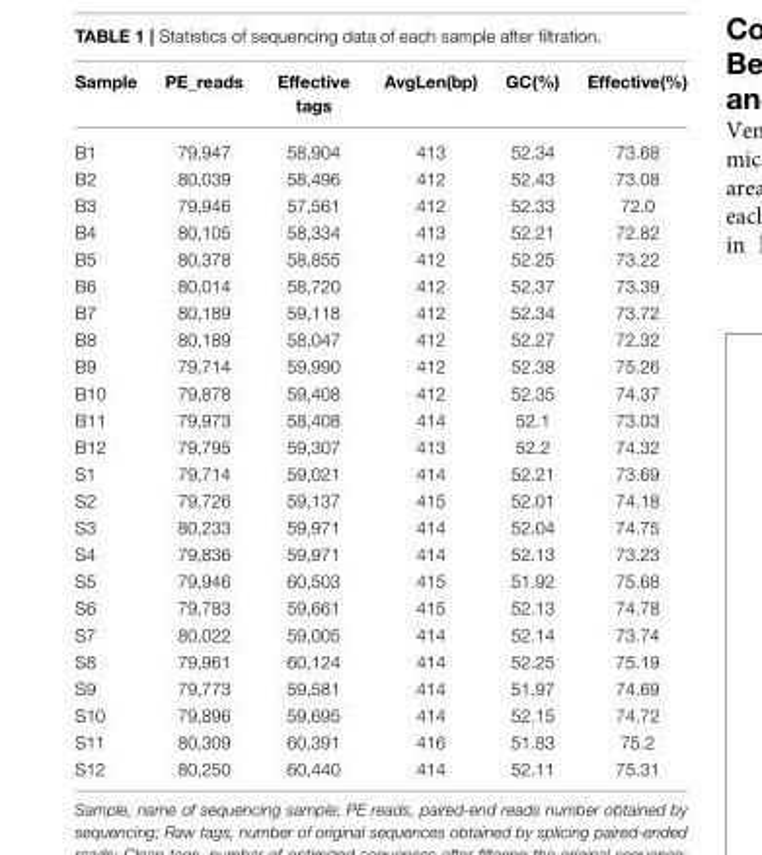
<table><thead><tr><td>Sample</td><td>PE_reads</td><td>Effective tags</td><td>AvgLen(bp)</td><td>GC(%)</td><td>Effective(%)</td></tr></thead><tbody><tr><td>B1</td><td>79,947</td><td>58,904</td><td>413</td><td>52.34</td><td>73.68</td></tr><tr><td>B2</td><td>80,039</td><td>58,496</td><td>412</td><td>52.43</td><td>73.08</td></tr><tr><td>B3</td><td>79,946</td><td>57,561</td><td>412</td><td>52.33</td><td>72.0</td></tr><tr><td>B4</td><td>80,105</td><td>58,334</td><td>413</td><td>52.21</td><td>72.82</td></tr><tr><td>B5</td><td>80,378</td><td>58,855</td><td>412</td><td>52.25</td><td>73.22</td></tr><tr><td>B6</td><td>80,014</td><td>58,720</td><td>412</td><td>52.37</td><td>73.39</td></tr><tr><td>B7</td><td>80,189</td><td>59,118</td><td>412</td><td>52.34</td><td>73.72</td></tr><tr><td>B8</td><td>80,189</td><td>58,047</td><td>412</td><td>52.27</td><td>72.32</td></tr><tr><td>B9</td><td>79,714</td><td>59,990</td><td>412</td><td>52.38</td><td>75.26</td></tr><tr><td>B10</td><td>79,878</td><td>59,408</td><td>412</td><td>52.35</td><td>74.37</td></tr><tr><td>B11</td><td>79,973</td><td>58,408</td><td>414</td><td>52.1</td><td>73.03</td></tr><tr><td>B12</td><td>79,795</td><td>59,307</td><td>413</td><td>52.2</td><td>74.32</td></tr><tr><td>S1</td><td>79,714</td><td>59,021</td><td>414</td><td>52.21</td><td>73.69</td></tr><tr><td>S2</td><td>79,726</td><td>59,137</td><td>415</td><td>52.01</td><td>74.18</td></tr><tr><td>S3</td><td>80,233</td><td>59,971</td><td>414</td><td>52.04</td><td>74.75</td></tr><tr><td>S4</td><td>79,836</td><td>59,971</td><td>414</td><td>52.13</td><td>73.23</td></tr><tr><td>S5</td><td>79,946</td><td>60,503</td><td>415</td><td>51.92</td><td>75.68</td></tr><tr><td>S6</td><td>79,783</td><td>59,661</td><td>415</td><td>52.13</td><td>74.78</td></tr><tr><td>S7</td><td>80,022</td><td>59,005</td><td>414</td><td>52.14</td><td>73.74</td></tr><tr><td>S8</td><td>79,961</td><td>60,124</td><td>414</td><td>52.25</td><td>75.19</td></tr><tr><td>S9</td><td>79,773</td><td>59,581</td><td>414</td><td>51.97</td><td>74.69</td></tr><tr><td>S10</td><td>79,896</td><td>59,695</td><td>414</td><td>52.15</td><td>74.72</td></tr><tr><td>S11</td><td>80,309</td><td>60,391</td><td>416</td><td>51.83</td><td>75.2</td></tr><tr><td>S12</td><td>80,250</td><td>60,440</td><td>414</td><td>52.11</td><td>75.31</td></tr></tbody></table>